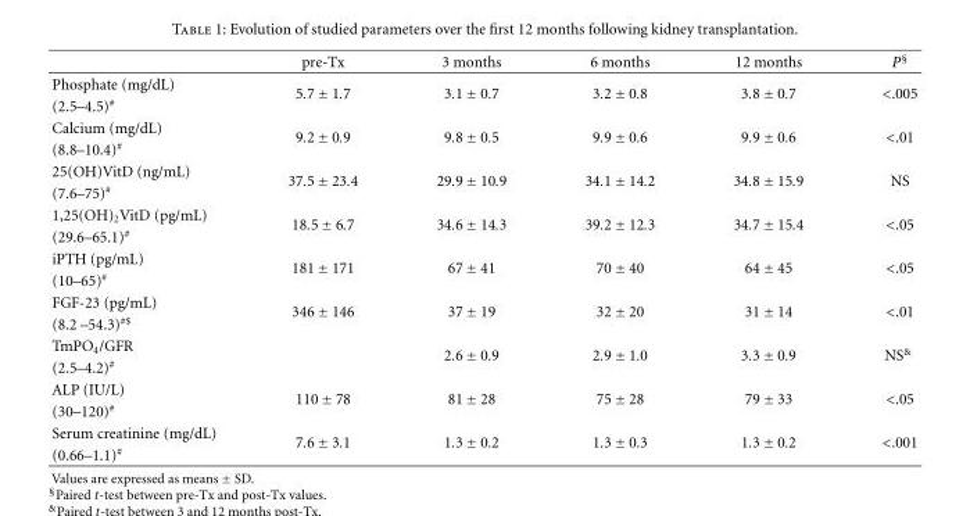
<table><thead><tr><td></td><td>pre-Tx</td><td>3 months</td><td>6 months</td><td>12 months</td><td>P<sup>§</sup></td></tr></thead><tbody><tr><td>Phosphate (mg/dL)</td><td rowspan="2">5.7 ± 1.7</td><td rowspan="2">3.1 ± 0.7</td><td rowspan="2">3.2 ± 0.8</td><td rowspan="2">3.8 ± 0.7</td><td rowspan="2">&lt;.005</td></tr><tr><td>(2.5–4.5)<sup>#</sup></td></tr><tr><td>Calcium (mg/dL)</td><td rowspan="2">9.2 ± 0.9</td><td rowspan="2">9.8 ± 0.5</td><td rowspan="2">9.9 ± 0.6</td><td rowspan="2">9.9 ± 0.6</td><td rowspan="2">&lt;.01</td></tr><tr><td>(8.8–10.4)<sup>#</sup></td></tr><tr><td>25(OH)VitD (ng/mL)</td><td rowspan="2">37.5 ± 23.4</td><td rowspan="2">29.9 ± 10.9</td><td rowspan="2">34.1 ± 14.2</td><td rowspan="2">34.8 ± 15.9</td><td rowspan="2">NS</td></tr><tr><td>(7.6–75)<sup>#</sup></td></tr><tr><td>1,25(OH)<sub>2</sub>VitD (pg/mL)</td><td rowspan="2">18.5 ± 6.7</td><td rowspan="2">34.6 ± 14.3</td><td rowspan="2">39.2 ± 12.3</td><td rowspan="2">34.7 ± 15.4</td><td rowspan="2">&lt;.05</td></tr><tr><td>(29.6–65.1)<sup>#</sup></td></tr><tr><td>iPTH (pg/mL)</td><td rowspan="2">181 ± 171</td><td rowspan="2">67 ± 41</td><td rowspan="2">70 ± 40</td><td rowspan="2">64 ± 45</td><td rowspan="2">&lt;.05</td></tr><tr><td>(10–65)<sup>#</sup></td></tr><tr><td>FGF-23 (pg/mL)</td><td rowspan="2">346 ± 146</td><td rowspan="2">37 ± 19</td><td rowspan="2">32 ± 20</td><td rowspan="2">31 ± 14</td><td rowspan="2">&lt;.01</td></tr><tr><td>(8.2 –54.3)<sup>#$</sup></td></tr><tr><td colspan="2">TmPO<sub>4</sub>/GFR</td><td rowspan="2">2.6 ± 0.9</td><td rowspan="2">2.9 ± 1.0</td><td rowspan="2">3.3 ± 0.9</td><td rowspan="2">NS<sup>&amp;</sup></td></tr><tr><td colspan="2">(2.5–4.2)<sup>#</sup></td></tr><tr><td>ALP (IU/L)</td><td rowspan="2">110 ± 78</td><td rowspan="2">81 ± 28</td><td rowspan="2">75 ± 28</td><td rowspan="2">79 ± 33</td><td rowspan="2">&lt;.05</td></tr><tr><td>(30–120)<sup>#</sup></td></tr><tr><td>Serum creatinine (mg/dL)</td><td rowspan="2">7.6 ± 3.1</td><td rowspan="2">1.3 ± 0.2</td><td rowspan="2">1.3 ± 0.3</td><td rowspan="2">1.3 ± 0.2</td><td rowspan="2">&lt;.001</td></tr><tr><td>(0.66–1.1)<sup>#</sup></td></tr></tbody></table>